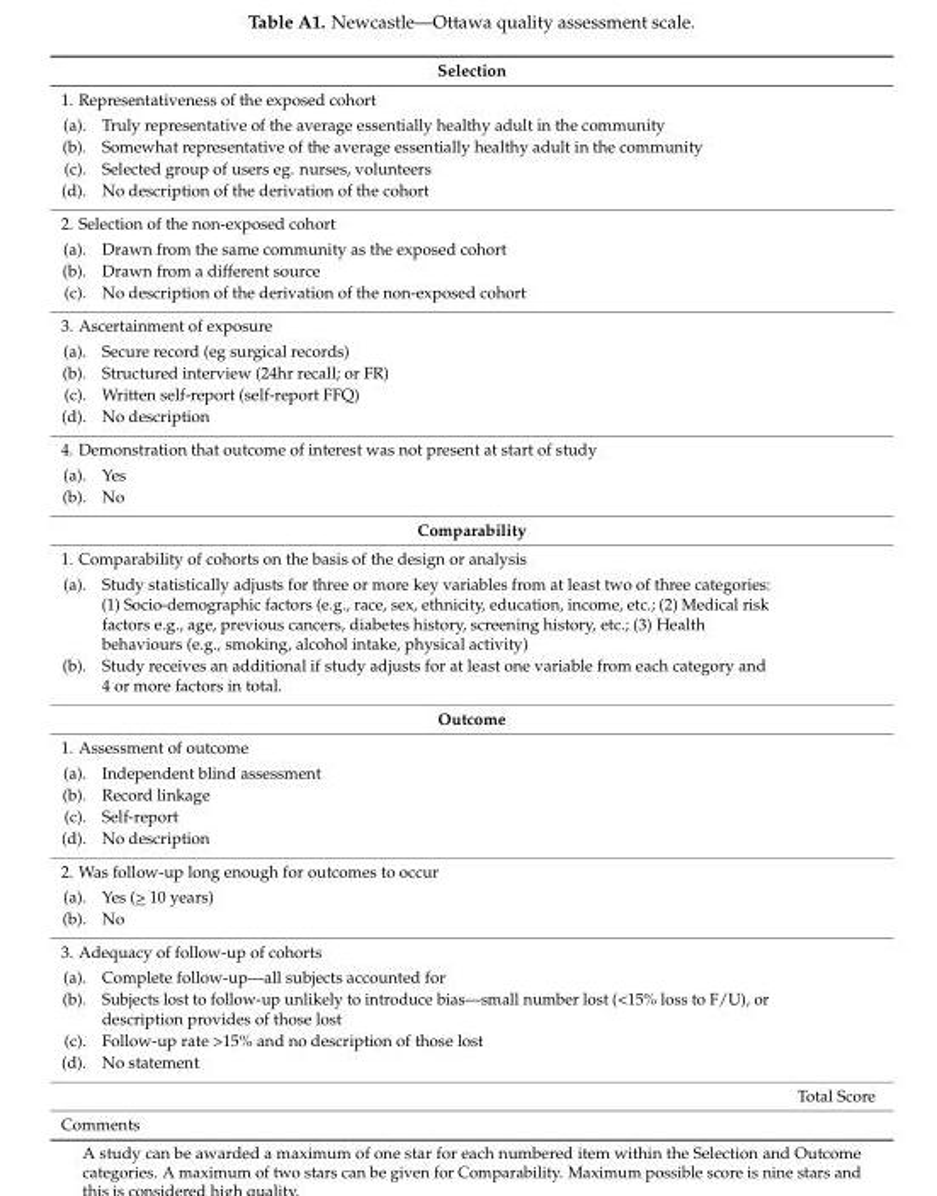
<table><thead><tr><td colspan="2">Selection</td></tr><tr><td>1. Representativeness of the exposed cohort (a). Truly representative of the average essentially healthy adult in the community (b). Somewhat representative of the average essentially healthy adult in the community (c). Selected group of users eg. nurses, volunteers (d). No description of the derivation of the cohort</td><td></td></tr></thead><tbody><tr><td colspan="2">2. Selection of the non-exposed cohort (a). Drawn from the same community as the exposed cohort (b). Drawn from a different source (c). No description of the derivation of the non-exposed cohort</td></tr><tr><td colspan="2">3. Ascertainment of exposure (a). Secure record (eg surgical records) (b). Structured interview (24hr recall; or FR) (c). Written self-report (self-report FFQ) (d). No description</td></tr><tr><td colspan="2">4. Demonstration that outcome of interest was not present at start of study (a). Yes (b). No</td></tr><tr><td colspan="2">Comparability</td></tr><tr><td colspan="2">1. Comparability of cohorts on the basis of the design or analysis (a). Study statistically adjusts for three or more key variables from at least two of three categories: (1) Socio-demographic factors (e.g., race, sex, ethnicity, education, income, etc.; (2) Medical risk factors e.g., age, previous cancers, diabetes history, screening history, etc.; (3) Health behaviours (e.g., smoking, alcohol intake, physical activity) (b). Study receives an additional if study adjusts for at least one variable from each category and 4 or more factors in total.</td></tr><tr><td colspan="2">Outcome</td></tr><tr><td colspan="2">1. Assessment of outcome (a). Independent blind assessment (b). Record linkage (c). Self-report (d). No description</td></tr><tr><td colspan="2">2. Was follow-up long enough for outcomes to occur (a). Yes (&gt; 10 years) (b). No</td></tr><tr><td colspan="2">3. Adequacy of follow-up of cohorts (a). Complete follow-up—all subjects accounted for (b). Subjects lost to follow-up unlikely to introduce bias—small number lost (&lt;15% loss to F/U), or description provides of those lost (c). Follow-up rate &gt;15% and no description of those lost (d). No statement</td></tr><tr><td></td><td>Total Score</td></tr><tr><td>Comments</td><td></td></tr></tbody></table>